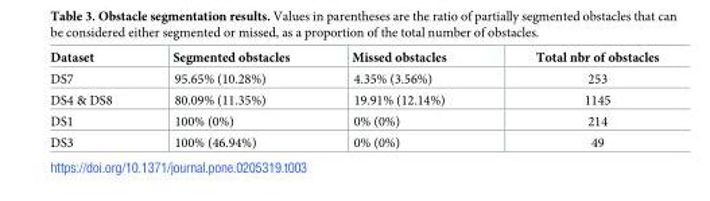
<table><thead><tr><td>Dataset</td><td>Segmented obstacles</td><td>Missed obstacles</td><td>Total nbr of obstacles</td></tr></thead><tbody><tr><td>DS7</td><td>95.65% (10.28%)</td><td>4.35% (3.56%)</td><td>253</td></tr><tr><td>DS4 &amp; DS8</td><td>80.09% (11.35%)</td><td>19.91% (12.14%)</td><td>1145</td></tr><tr><td>DS1</td><td>100% (0%)</td><td>0% (0%)</td><td>214</td></tr><tr><td>DS3</td><td>100% (46.94%)</td><td>0% (0%)</td><td>49</td></tr></tbody></table>